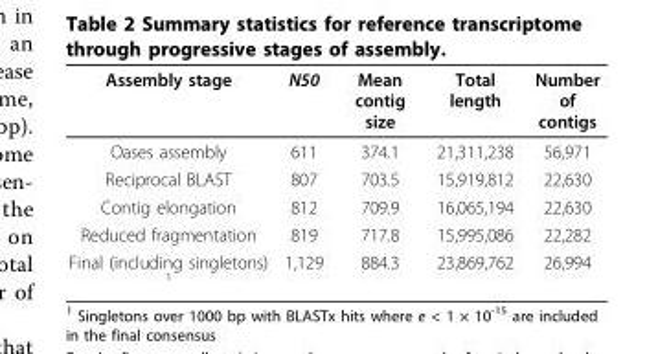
<table><thead><tr><td>Assembly stage</td><td>N50</td><td>Mean contig size</td><td>Total length</td><td>Number of contigs</td></tr></thead><tbody><tr><td>Oases assembly</td><td>611</td><td>374.1</td><td>21,311,238</td><td>56,971</td></tr><tr><td>Reciprocal BLAST</td><td>807</td><td>703.5</td><td>15,919,812</td><td>22,630</td></tr><tr><td>Contig elongation</td><td>812</td><td>709.9</td><td>16,065,194</td><td>22,630</td></tr><tr><td>Reduced fragmentation</td><td>819</td><td>717.8</td><td>15,995,086</td><td>22,282</td></tr><tr><td>Final (including singletons) <sup>1</sup></td><td>1,129</td><td>884.3</td><td>23,869,762</td><td>26,994</td></tr></tbody></table>